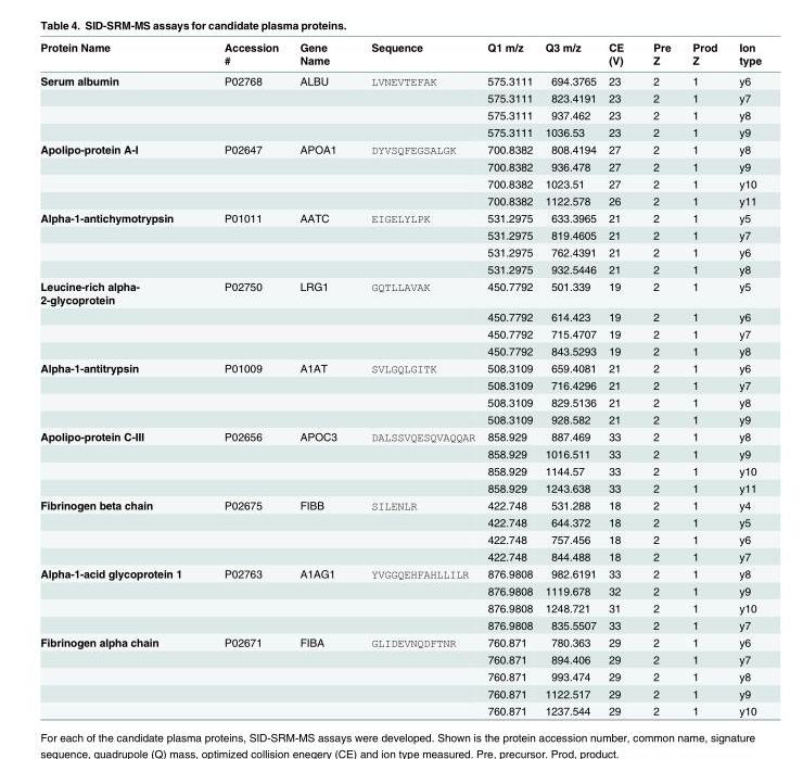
<table><thead><tr><td>Protein Name</td><td>Accession #</td><td>Gene Name</td><td>Sequence</td><td>Q1 m/z</td><td>Q3 m/z</td><td>CE (V)</td><td>Pre Z</td><td>Prod Z</td><td>Ion type</td></tr></thead><tbody><tr><td rowspan="4">Serum albumin</td><td>P02768</td><td>ALBU</td><td>LVNEVTEFAK</td><td>575.3111</td><td>694.3765</td><td>23</td><td>2</td><td>1</td><td>y6</td></tr><tr><td></td><td></td><td></td><td>575.3111</td><td>823.4191</td><td>23</td><td>2</td><td>1</td><td>y7</td></tr><tr><td></td><td></td><td></td><td>575.3111</td><td>937.462</td><td>23</td><td>2</td><td>1</td><td>y8</td></tr><tr><td></td><td></td><td></td><td>575.3111</td><td>1036.53</td><td>23</td><td>2</td><td>1</td><td>y9</td></tr><tr><td rowspan="4">Apolipo-protein A-I</td><td>P02647</td><td>APOA1</td><td>DYVSQFEGSALGK</td><td>700.8382</td><td>808.4194</td><td>27</td><td>2</td><td>1</td><td>y8</td></tr><tr><td></td><td></td><td></td><td>700.8382</td><td>936.478</td><td>27</td><td>2</td><td>1</td><td>y9</td></tr><tr><td></td><td></td><td></td><td>700.8382</td><td>1023.51</td><td>27</td><td>2</td><td>1</td><td>y10</td></tr><tr><td></td><td></td><td></td><td>700.8382</td><td>1122.578</td><td>26</td><td>2</td><td>1</td><td>y11</td></tr><tr><td rowspan="4">Alpha-1-antichymotrypsin</td><td>P01011</td><td>AATC</td><td>EIGELYLPK</td><td>531.2975</td><td>633.3965</td><td>21</td><td>2</td><td>1</td><td>y5</td></tr><tr><td></td><td></td><td></td><td>531.2975</td><td>819.4605</td><td>21</td><td>2</td><td>1</td><td>y7</td></tr><tr><td></td><td></td><td></td><td>531.2975</td><td>762.4391</td><td>21</td><td>2</td><td>1</td><td>y6</td></tr><tr><td></td><td></td><td></td><td>531.2975</td><td>932.5446</td><td>21</td><td>2</td><td>1</td><td>y8</td></tr><tr><td rowspan="4">Leucine-rich alpha- 2-glycoprotein</td><td>P02750</td><td>LRG1</td><td>GQTLLAVAK</td><td>450.7792</td><td>501.339</td><td>19</td><td>2</td><td>1</td><td>y5</td></tr><tr><td></td><td></td><td></td><td>450.7792</td><td>614.423</td><td>19</td><td>2</td><td>1</td><td>y6</td></tr><tr><td></td><td></td><td></td><td>450.7792</td><td>715.4707</td><td>19</td><td>2</td><td>1</td><td>y7</td></tr><tr><td></td><td></td><td></td><td>450.7792</td><td>843.5293</td><td>19</td><td>2</td><td>1</td><td>y8</td></tr><tr><td rowspan="4">Alpha-1-antitrypsin</td><td>P01009</td><td>A1AT</td><td>SVLGQLGITK</td><td>508.3109</td><td>659.4081</td><td>21</td><td>2</td><td>1</td><td>y6</td></tr><tr><td></td><td></td><td></td><td>508.3109</td><td>716.4296</td><td>21</td><td>2</td><td>1</td><td>y7</td></tr><tr><td></td><td></td><td></td><td>508.3109</td><td>829.5136</td><td>21</td><td>2</td><td>1</td><td>y8</td></tr><tr><td></td><td></td><td></td><td>508.3109</td><td>928.582</td><td>21</td><td>2</td><td>1</td><td>y9</td></tr><tr><td rowspan="4">Apolipo-protein C-III</td><td>P02656</td><td>APOC3</td><td>DALSSVQESQVAQQAR</td><td>858.929</td><td>887.469</td><td>33</td><td>2</td><td>1</td><td>y8</td></tr><tr><td></td><td></td><td></td><td>858.929</td><td>1016.511</td><td>33</td><td>2</td><td>1</td><td>y9</td></tr><tr><td></td><td></td><td></td><td>858.929</td><td>1144.57</td><td>33</td><td>2</td><td>1</td><td>y10</td></tr><tr><td></td><td></td><td></td><td>858.929</td><td>1243.638</td><td>33</td><td>2</td><td>1</td><td>y11</td></tr><tr><td rowspan="4">Fibrinogen beta chain</td><td>P02675</td><td>FIBB</td><td>SILENLR</td><td>422.748</td><td>531.288</td><td>18</td><td>2</td><td>1</td><td>y4</td></tr><tr><td></td><td></td><td></td><td>422.748</td><td>644.372</td><td>18</td><td>2</td><td>1</td><td>y5</td></tr><tr><td></td><td></td><td></td><td>422.748</td><td>757.456</td><td>18</td><td>2</td><td>1</td><td>y6</td></tr><tr><td></td><td></td><td></td><td>422.748</td><td>844.488</td><td>18</td><td>2</td><td>1</td><td>y7</td></tr><tr><td rowspan="4">Alpha-1-acid glycoprotein 1</td><td>P02763</td><td>A1AG1</td><td>YVGGQEHFAHLLILR</td><td>876.9808</td><td>982.6191</td><td>33</td><td>2</td><td>1</td><td>y8</td></tr><tr><td></td><td></td><td></td><td>876.9808</td><td>1119.678</td><td>32</td><td>2</td><td>1</td><td>y9</td></tr><tr><td></td><td></td><td></td><td>876.9808</td><td>1248.721</td><td>31</td><td>2</td><td>1</td><td>y10</td></tr><tr><td></td><td></td><td></td><td>876.9808</td><td>835.5507</td><td>33</td><td>2</td><td>1</td><td>y7</td></tr><tr><td rowspan="5">Fibrinogen alpha chain</td><td>P02671</td><td>FIBA</td><td>GLIDEVNQDFTNR</td><td>760.871</td><td>780.363</td><td>29</td><td>2</td><td>1</td><td>y6</td></tr><tr><td></td><td></td><td></td><td>760.871</td><td>894.406</td><td>29</td><td>2</td><td>1</td><td>y7</td></tr><tr><td></td><td></td><td></td><td>760.871</td><td>993.474</td><td>29</td><td>2</td><td>1</td><td>y8</td></tr><tr><td></td><td></td><td></td><td>760.871</td><td>1122.517</td><td>29</td><td>2</td><td>1</td><td>y9</td></tr><tr><td></td><td></td><td></td><td>760.871</td><td>1237.544</td><td>29</td><td>2</td><td>1</td><td>y10</td></tr></tbody></table>